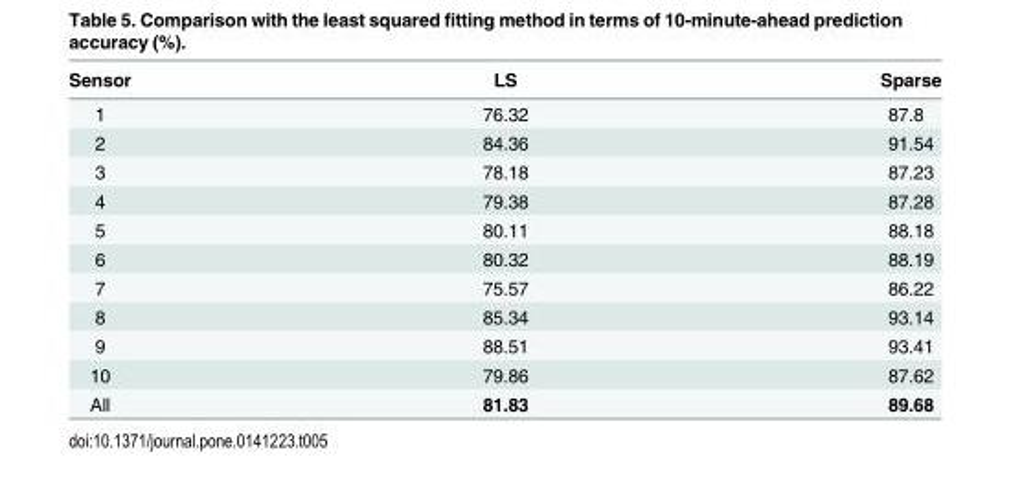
<table><thead><tr><td>Sensor</td><td>LS</td><td>Sparse</td></tr></thead><tbody><tr><td>1</td><td>76.32</td><td>87.8</td></tr><tr><td>2</td><td>84.36</td><td>91.54</td></tr><tr><td>3</td><td>78.18</td><td>87.23</td></tr><tr><td>4</td><td>79.38</td><td>87.28</td></tr><tr><td>5</td><td>80.11</td><td>88.18</td></tr><tr><td>6</td><td>80.32</td><td>88.19</td></tr><tr><td>7</td><td>75.57</td><td>86.22</td></tr><tr><td>8</td><td>85.34</td><td>93.14</td></tr><tr><td>9</td><td>88.51</td><td>93.41</td></tr><tr><td>10</td><td>79.86</td><td>87.62</td></tr><tr><td>All</td><td>81.83</td><td>89.68</td></tr></tbody></table>